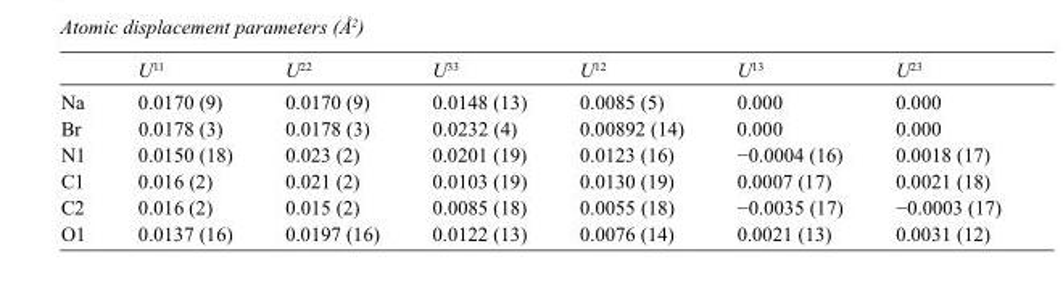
<table><thead><tr><td></td><td>U<sup>11</sup></td><td>U<sup>22</sup></td><td>U<sup>33</sup></td><td>U<sup>12</sup></td><td>U<sup>13</sup></td><td>U<sup>23</sup></td></tr></thead><tbody><tr><td>Na</td><td>0.0170 (9)</td><td>0.0170 (9)</td><td>0.0148 (13)</td><td>0.0085 (5)</td><td>0.000</td><td>0.000</td></tr><tr><td>Br</td><td>0.0178 (3)</td><td>0.0178 (3)</td><td>0.0232 (4)</td><td>0.00892 (14)</td><td>0.000</td><td>0.000</td></tr><tr><td>N1</td><td>0.0150 (18)</td><td>0.023 (2)</td><td>0.0201 (19)</td><td>0.0123 (16)</td><td>−0.0004 (16)</td><td>0.0018 (17)</td></tr><tr><td>C1</td><td>0.016 (2)</td><td>0.021 (2)</td><td>0.0103 (19)</td><td>0.0130 (19)</td><td>0.0007 (17)</td><td>0.0021 (18)</td></tr><tr><td>C2</td><td>0.016 (2)</td><td>0.015 (2)</td><td>0.0085 (18)</td><td>0.0055 (18)</td><td>−0.0035 (17)</td><td>−0.0003 (17)</td></tr><tr><td>O1</td><td>0.0137 (16)</td><td>0.0197 (16)</td><td>0.0122 (13)</td><td>0.0076 (14)</td><td>0.0021 (13)</td><td>0.0031 (12)</td></tr></tbody></table>